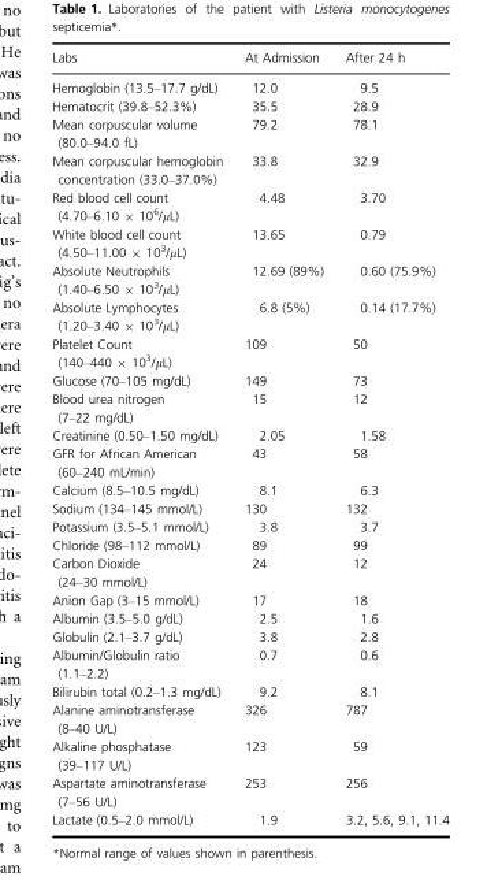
<table><thead><tr><td>Labs</td><td>At Admission</td><td>After 24 h</td></tr></thead><tbody><tr><td>Hemoglobin (13.5–17.7 g/dL)</td><td>12.0</td><td>9.5</td></tr><tr><td>Hematocrit (39.8–52.3%)</td><td>35.5</td><td>28.9</td></tr><tr><td>Mean corpuscular volume (80.0–94.0 fL)</td><td>79.2</td><td>78.1</td></tr><tr><td>Mean corpuscular hemoglobin concentration (33.0–37.0%)</td><td>33.8</td><td>32.9</td></tr><tr><td>Red blood cell count (4.70–6.10 × 10<sup>6</sup>/μL)</td><td>4.48</td><td>3.70</td></tr><tr><td>White blood cell count (4.50–11.00 × 10<sup>3</sup>/μL)</td><td>13.65</td><td>0.79</td></tr><tr><td>Absolute Neutrophils (1.40–6.50 × 10<sup>3</sup>/μL)</td><td>12.69 (89%)</td><td>0.60 (75.9%)</td></tr><tr><td>Absolute Lymphocytes (1.20–3.40 × 10<sup>3</sup>/μL)</td><td>6.8 (5%)</td><td>0.14 (17.7%)</td></tr><tr><td>Platelet Count (140–440 × 10<sup>3</sup>/μL)</td><td>109</td><td>50</td></tr><tr><td>Glucose (70–105 mg/dL)</td><td>149</td><td>73</td></tr><tr><td>Blood urea nitrogen (7–22 mg/dL)</td><td>15</td><td>12</td></tr><tr><td>Creatinine (0.50–1.50 mg/dL)</td><td>2.05</td><td>1.58</td></tr><tr><td>GFR for African American (60–240 mL/min)</td><td>43</td><td>58</td></tr><tr><td>Calcium (8.5–10.5 mg/dL)</td><td>8.1</td><td>6.3</td></tr><tr><td>Sodium (134–145 mmol/L)</td><td>130</td><td>132</td></tr><tr><td>Potassium (3.5–5.1 mmol/L)</td><td>3.8</td><td>3.7</td></tr><tr><td>Chloride (98–112 mmol/L)</td><td>89</td><td>99</td></tr><tr><td>Carbon Dioxide (24–30 mmol/L)</td><td>24</td><td>12</td></tr><tr><td>Anion Gap (3–15 mmol/L)</td><td>17</td><td>18</td></tr><tr><td>Albumin (3.5–5.0 g/dL)</td><td>2.5</td><td>1.6</td></tr><tr><td>Globulin (2.1–3.7 g/dL)</td><td>3.8</td><td>2.8</td></tr><tr><td>Albumin/Globulin ratio (1.1–2.2)</td><td>0.7</td><td>0.6</td></tr><tr><td>Bilirubin total (0.2–1.3 mg/dL)</td><td>9.2</td><td>8.1</td></tr><tr><td>Alanine aminotransferase (8–40 U/L)</td><td>326</td><td>787</td></tr><tr><td>Alkaline phosphatase (39–117 U/L)</td><td>123</td><td>59</td></tr><tr><td>Aspartate aminotransferase (7–56 U/L)</td><td>253</td><td>256</td></tr><tr><td>Lactate (0.5–2.0 mmol/L)</td><td>1.9</td><td>3.2, 5.6, 9.1, 11.4</td></tr></tbody></table>